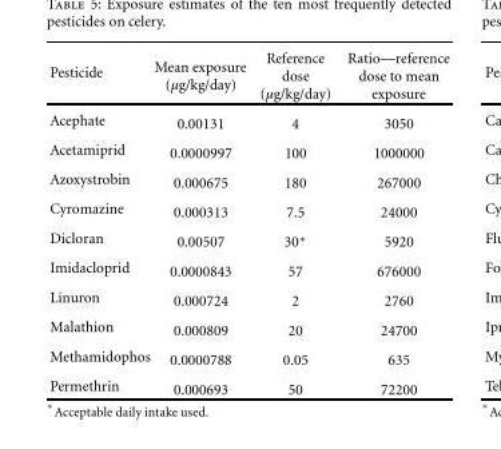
<table><thead><tr><td>Pesticide</td><td>Mean exposure (µg/kg/day)</td><td>Reference dose (µg/kg/day)</td><td>Ratio—reference dose to mean exposure</td></tr></thead><tbody><tr><td>Acephate</td><td>0.00131</td><td>4</td><td>3050</td></tr><tr><td>Acetamiprid</td><td>0.0000997</td><td>100</td><td>1000000</td></tr><tr><td>Azoxystrobin</td><td>0.000675</td><td>180</td><td>267000</td></tr><tr><td>Cyromazine</td><td>0.000313</td><td>7.5</td><td>24000</td></tr><tr><td>Dicloran</td><td>0.00507</td><td>30∗</td><td>5920</td></tr><tr><td>Imidacloprid</td><td>0.0000843</td><td>57</td><td>676000</td></tr><tr><td>Linuron</td><td>0.000724</td><td>2</td><td>2760</td></tr><tr><td>Malathion</td><td>0.000809</td><td>20</td><td>24700</td></tr><tr><td>Methamidophos</td><td>0.0000788</td><td>0.05</td><td>635</td></tr><tr><td>Permethrin</td><td>0.000693</td><td>50</td><td>72200</td></tr></tbody></table>